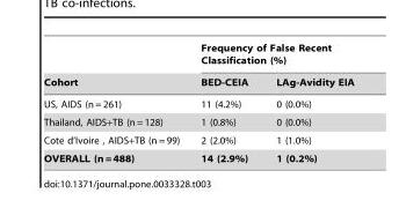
<table><thead><tr><td rowspan="2">Cohort</td><td colspan="2">Frequency of False Recent Classification (%)</td></tr><tr><td>BED-CEIA</td><td>LAg-Avidity EIA</td></tr></thead><tbody><tr><td>US, AIDS (n = 261)</td><td>11 (4.2%)</td><td>0 (0.0%)</td></tr><tr><td>Thailand, AIDS+TB (n = 128)</td><td>1 (0.8%)</td><td>0 (0.0%)</td></tr><tr><td>Cote d’Ivoire , AIDS+TB (n = 99)</td><td>2 (2.0%)</td><td>1 (1.0%)</td></tr><tr><td>OVERALL (n = 488)</td><td>14 (2.9%)</td><td>1 (0.2%)</td></tr></tbody></table>